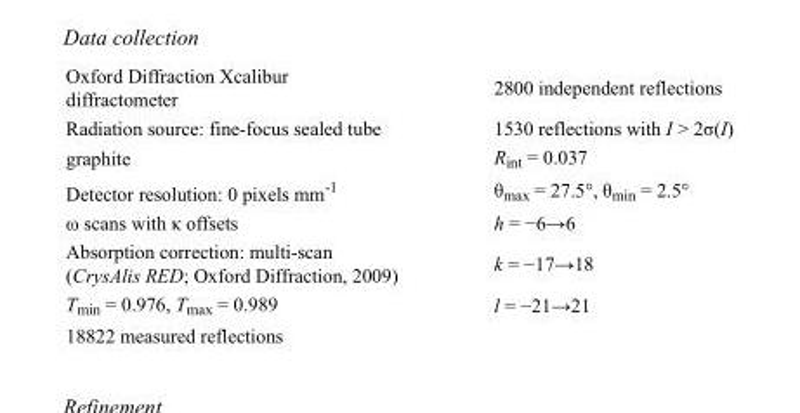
<table><tbody><tr><td>Oxford Diffraction Xcalibur diffractometer</td><td>2800 independent reflections</td></tr><tr><td>Radiation source: fine-focus sealed tube</td><td>1530 reflections with I &gt; 2σ(I)</td></tr><tr><td>graphite</td><td>R<sub>int</sub> = 0.037</td></tr><tr><td>Detector resolution: 0 pixels mm<sup>-1</sup></td><td>θ<sub>max</sub> = 27.5°, θ<sub>min</sub> = 2.5°</td></tr><tr><td>ω scans with κ offsets</td><td>h = −6→6</td></tr><tr><td>Absorption correction: multi-scan (CrysAlis RED; Oxford Diffraction, 2009)</td><td>k = −17→18</td></tr><tr><td>T<sub>min</sub> = 0.976, T<sub>max</sub> = 0.989</td><td>l = −21→21</td></tr><tr><td>18822 measured reflections</td><td></td></tr></tbody></table>